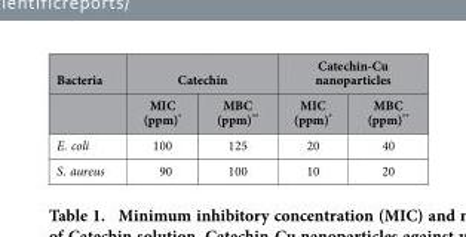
<table><thead><tr><td rowspan="2">Bacteria</td><td colspan="2">Catechin</td><td colspan="2">Catechin-Cu nanoparticles</td></tr><tr><td>MIC (ppm)*</td><td>MBC (ppm)**</td><td>MIC (ppm)*</td><td>MBC (ppm)**</td></tr></thead><tbody><tr><td>E. coli</td><td>100</td><td>125</td><td>20</td><td>40</td></tr><tr><td>S. aureus</td><td>90</td><td>100</td><td>10</td><td>20</td></tr></tbody></table>